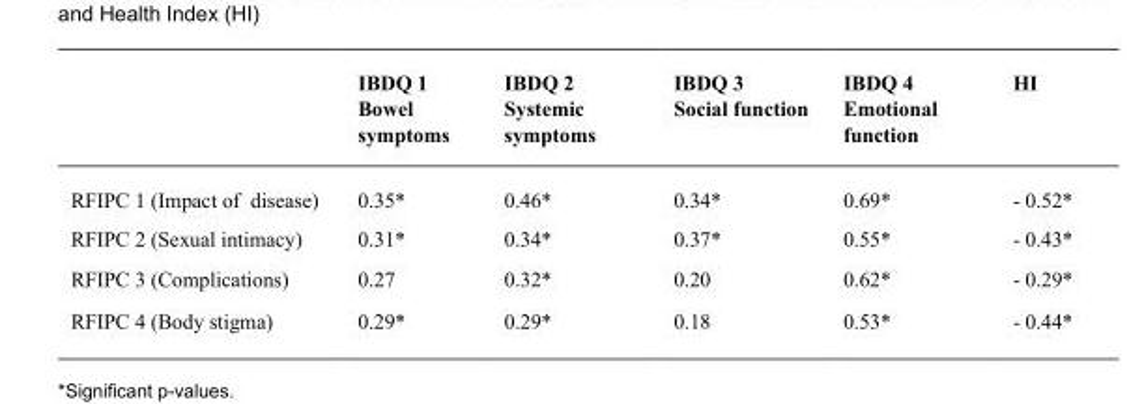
<table><thead><tr><td rowspan="2"></td><td rowspan="2">IBDQ 1 Bowel symptoms</td><td rowspan="2">IBDQ 2 Systemic symptoms</td><td rowspan="2">IBDQ 3 Social function</td><td rowspan="2">IBDQ 4 Emotional function</td><td rowspan="2">HI</td></tr><tr></tr></thead><tbody><tr><td>RFIPC 1 (Impact of disease)</td><td>0.35*</td><td>0.46*</td><td>0.34*</td><td>0.69*</td><td>- 0.52*</td></tr><tr><td>RFIPC 2 (Sexual intimacy)</td><td>0.31*</td><td>0.34*</td><td>0.37*</td><td>0.55*</td><td>- 0.43*</td></tr><tr><td>RFIPC 3 (Complications)</td><td>0.27</td><td>0.32*</td><td>0.20</td><td>0.62*</td><td>- 0.29*</td></tr><tr><td>RFIPC 4 (Body stigma)</td><td>0.29*</td><td>0.29*</td><td>0.18</td><td>0.53*</td><td>- 0.44*</td></tr></tbody></table>